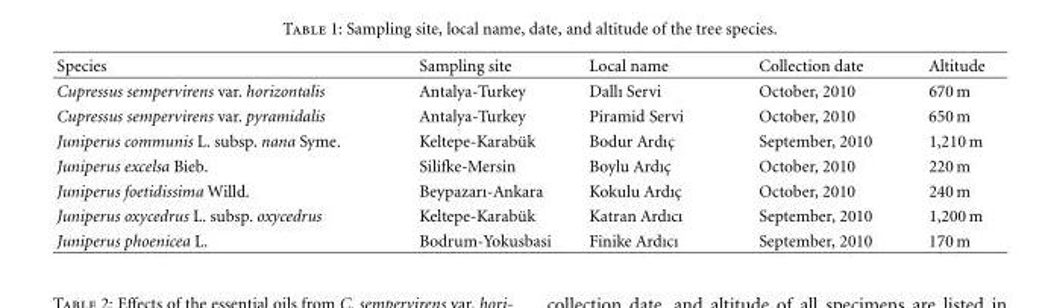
<table><thead><tr><td>Species</td><td>Sampling site</td><td>Local name</td><td>Collection date</td><td>Altitude</td></tr></thead><tbody><tr><td>Cupressus sempervirens var. horizontalis</td><td>Antalya-Turkey</td><td>Dallı Servi</td><td>October, 2010</td><td>670 m</td></tr><tr><td>Cupressus sempervirens var. pyramidalis</td><td>Antalya-Turkey</td><td>Piramid Servi</td><td>October, 2010</td><td>650 m</td></tr><tr><td>Juniperus communis L. subsp. nana Syme.</td><td>Keltepe-Karab¨uk</td><td>Bodur Ardıc¸</td><td>September, 2010</td><td>1,210 m</td></tr><tr><td>Juniperus excelsa Bieb.</td><td>Silifke-Mersin</td><td>Boylu Ardıc¸</td><td>October, 2010</td><td>220 m</td></tr><tr><td>Juniperus foetidissima Willd.</td><td>Beypazarı-Ankara</td><td>Kokulu Ardıc¸</td><td>October, 2010</td><td>240 m</td></tr><tr><td>Juniperus oxycedrus L. subsp. oxycedrus</td><td>Keltepe-Karab¨uk</td><td>Katran Ardıcı</td><td>September, 2010</td><td>1,200 m</td></tr><tr><td>Juniperus phoenicea L.</td><td>Bodrum-Yokusbasi</td><td>Finike Ardıcı</td><td>September, 2010</td><td>170 m</td></tr></tbody></table>